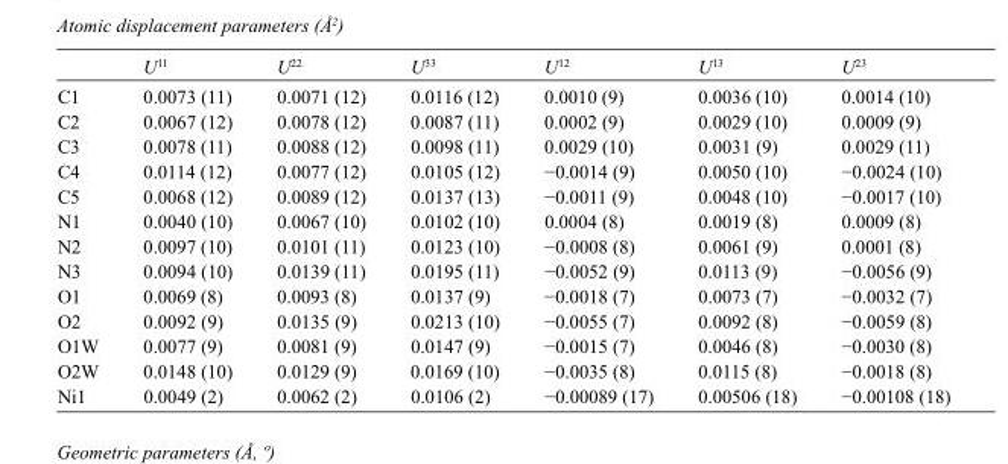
<table><thead><tr><td></td><td>U<sup>11</sup></td><td>U<sup>22</sup></td><td>U<sup>33</sup></td><td>U<sup>12</sup></td><td>U<sup>13</sup></td><td>U<sup>23</sup></td></tr></thead><tbody><tr><td>C1</td><td>0.0073 (11)</td><td>0.0071 (12)</td><td>0.0116 (12)</td><td>0.0010 (9)</td><td>0.0036 (10)</td><td>0.0014 (10)</td></tr><tr><td>C2</td><td>0.0067 (12)</td><td>0.0078 (12)</td><td>0.0087 (11)</td><td>0.0002 (9)</td><td>0.0029 (10)</td><td>0.0009 (9)</td></tr><tr><td>C3</td><td>0.0078 (11)</td><td>0.0088 (12)</td><td>0.0098 (11)</td><td>0.0029 (10)</td><td>0.0031 (9)</td><td>0.0029 (11)</td></tr><tr><td>C4</td><td>0.0114 (12)</td><td>0.0077 (12)</td><td>0.0105 (12)</td><td>−0.0014 (9)</td><td>0.0050 (10)</td><td>−0.0024 (10)</td></tr><tr><td>C5</td><td>0.0068 (12)</td><td>0.0089 (12)</td><td>0.0137 (13)</td><td>−0.0011 (9)</td><td>0.0048 (10)</td><td>−0.0017 (10)</td></tr><tr><td>N1</td><td>0.0040 (10)</td><td>0.0067 (10)</td><td>0.0102 (10)</td><td>0.0004 (8)</td><td>0.0019 (8)</td><td>0.0009 (8)</td></tr><tr><td>N2</td><td>0.0097 (10)</td><td>0.0101 (11)</td><td>0.0123 (10)</td><td>−0.0008 (8)</td><td>0.0061 (9)</td><td>0.0001 (8)</td></tr><tr><td>N3</td><td>0.0094 (10)</td><td>0.0139 (11)</td><td>0.0195 (11)</td><td>−0.0052 (9)</td><td>0.0113 (9)</td><td>−0.0056 (9)</td></tr><tr><td>O1</td><td>0.0069 (8)</td><td>0.0093 (8)</td><td>0.0137 (9)</td><td>−0.0018 (7)</td><td>0.0073 (7)</td><td>−0.0032 (7)</td></tr><tr><td>O2</td><td>0.0092 (9)</td><td>0.0135 (9)</td><td>0.0213 (10)</td><td>−0.0055 (7)</td><td>0.0092 (8)</td><td>−0.0059 (8)</td></tr><tr><td>O1W</td><td>0.0077 (9)</td><td>0.0081 (9)</td><td>0.0147 (9)</td><td>−0.0015 (7)</td><td>0.0046 (8)</td><td>−0.0030 (8)</td></tr><tr><td>O2W</td><td>0.0148 (10)</td><td>0.0129 (9)</td><td>0.0169 (10)</td><td>−0.0035 (8)</td><td>0.0115 (8)</td><td>−0.0018 (8)</td></tr><tr><td>Ni1</td><td>0.0049 (2)</td><td>0.0062 (2)</td><td>0.0106 (2)</td><td>−0.00089 (17)</td><td>0.00506 (18)</td><td>−0.00108 (18)</td></tr></tbody></table>